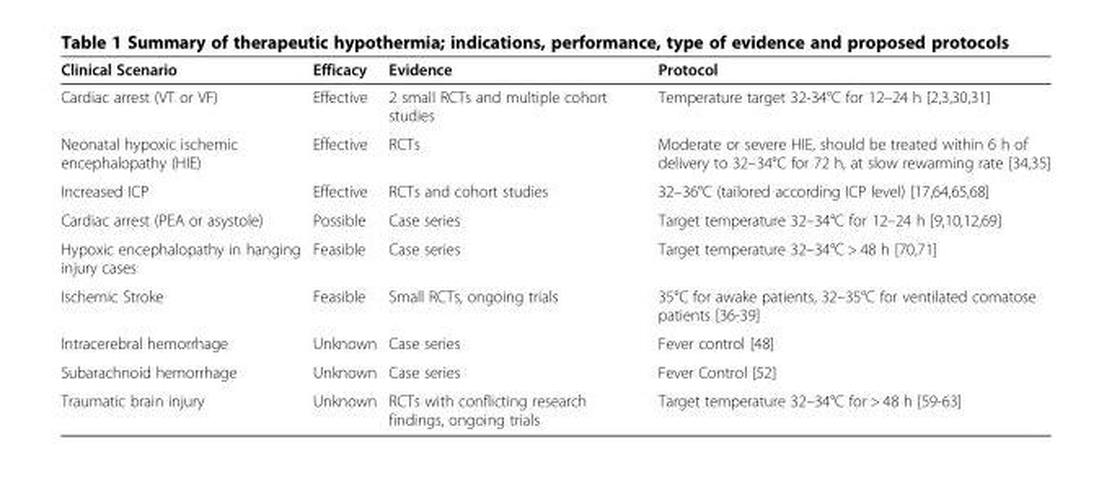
<table><thead><tr><td>Clinical Scenario</td><td>Efficacy</td><td>Evidence</td><td>Protocol</td></tr></thead><tbody><tr><td>Cardiac arrest (VT or VF)</td><td>Effective</td><td>2 small RCTs and multiple cohort studies</td><td>Temperature target 32-34°C for 12–24 h [2,3,30,31]</td></tr><tr><td>Neonatal hypoxic ischemic encephalopathy (HIE)</td><td>Effective</td><td>RCTs</td><td>Moderate or severe HIE, should be treated within 6 h of delivery to 32–34°C for 72 h, at slow rewarming rate [34,35]</td></tr><tr><td>Increased ICP</td><td>Effective</td><td>RCTs and cohort studies</td><td>32–36°C (tailored according ICP level) [17,64,65,68]</td></tr><tr><td>Cardiac arrest (PEA or asystole)</td><td>Possible</td><td>Case series</td><td>Target temperature 32–34°C for 12–24 h [9,10,12,69]</td></tr><tr><td>Hypoxic encephalopathy in hanging injury cases</td><td>Feasible</td><td>Case series</td><td>Target temperature 32–34°C &gt; 48 h [70,71]</td></tr><tr><td>Ischemic Stroke</td><td>Feasible</td><td>Small RCTs, ongoing trials</td><td>35°C for awake patients, 32–35°C for ventilated comatose patients [36-39]</td></tr><tr><td>Intracerebral hemorrhage</td><td>Unknown</td><td>Case series</td><td>Fever control [48]</td></tr><tr><td>Subarachnoid hemorrhage</td><td>Unknown</td><td>Case series</td><td>Fever Control [52]</td></tr><tr><td>Traumatic brain injury</td><td>Unknown</td><td>RCTs with conflicting research findings, ongoing trials</td><td>Target temperature 32–34°C for &gt; 48 h [59-63]</td></tr></tbody></table>